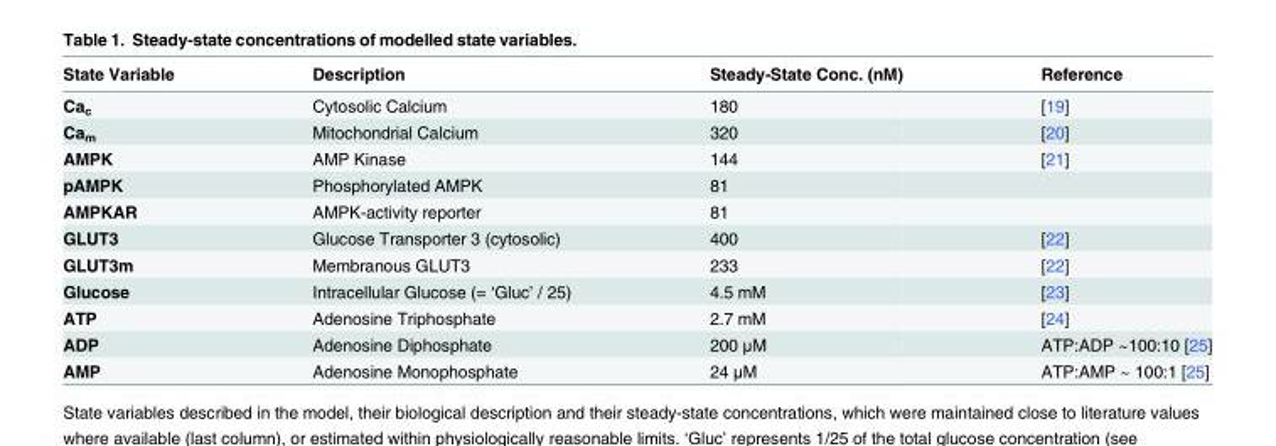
<table><thead><tr><td>State Variable</td><td>Description</td><td>Steady-State Conc. (nM)</td><td>Reference</td></tr></thead><tbody><tr><td>Ca<sub>c</sub></td><td>Cytosolic Calcium</td><td>180</td><td>[19]</td></tr><tr><td>Ca<sub>m</sub></td><td>Mitochondrial Calcium</td><td>320</td><td>[20]</td></tr><tr><td>AMPK</td><td>AMP Kinase</td><td>144</td><td>[21]</td></tr><tr><td>pAMPK</td><td>Phosphorylated AMPK</td><td>81</td><td></td></tr><tr><td>AMPKAR</td><td>AMPK-activity reporter</td><td>81</td><td></td></tr><tr><td>GLUT3</td><td>Glucose Transporter 3 (cytosolic)</td><td>400</td><td>[22]</td></tr><tr><td>GLUT3m</td><td>Membranous GLUT3</td><td>233</td><td>[22]</td></tr><tr><td>Glucose</td><td>Intracellular Glucose (= ‘Gluc’ / 25)</td><td>4.5 mM</td><td>[23]</td></tr><tr><td>ATP</td><td>Adenosine Triphosphate</td><td>2.7 mM</td><td>[24]</td></tr><tr><td>ADP</td><td>Adenosine Diphosphate</td><td>200 μM</td><td>ATP:ADP ~100:10 [25]</td></tr><tr><td>AMP</td><td>Adenosine Monophosphate</td><td>24 μM</td><td>ATP:AMP ~ 100:1 [25]</td></tr></tbody></table>